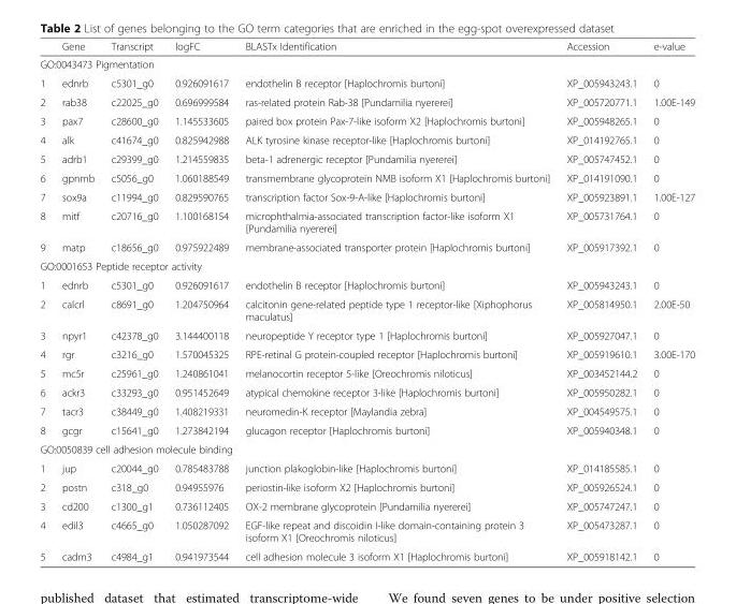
<table><thead><tr><td></td><td>Gene</td><td>Transcript</td><td>logFC</td><td>BLASTx Identification</td><td>Accession</td><td>e-value</td></tr></thead><tbody><tr><td colspan="7">GO:0043473 Pigmentation</td></tr><tr><td>1</td><td>ednrb</td><td>c5301_g0</td><td>0.926091617</td><td>endothelin B receptor [Haplochromis burtoni]</td><td>XP_005943243.1</td><td>0</td></tr><tr><td>2</td><td>rab38</td><td>c22025_g0</td><td>0.696999584</td><td>ras-related protein Rab-38 [Pundamilia nyererei]</td><td>XP_005720771.1</td><td>1.00E-149</td></tr><tr><td>3</td><td>pax7</td><td>c28600_g0</td><td>1.145533605</td><td>paired box protein Pax-7-like isoform X2 [Haplochromis burtoni]</td><td>XP_005948265.1</td><td>0</td></tr><tr><td>4</td><td>alk</td><td>c41674_g0</td><td>0.825942988</td><td>ALK tyrosine kinase receptor-like [Haplochromis burtoni]</td><td>XP_014192765.1</td><td>0</td></tr><tr><td>5</td><td>adrb1</td><td>c29399_g0</td><td>1.214559835</td><td>beta-1 adrenergic receptor [Pundamilia nyererei]</td><td>XP_005747452.1</td><td>0</td></tr><tr><td>6</td><td>gpnmb</td><td>c5056_g0</td><td>1.060188549</td><td>transmembrane glycoprotein NMB isoform X1 [Haplochromis burtoni]</td><td>XP_014191090.1</td><td>0</td></tr><tr><td>7</td><td>sox9a</td><td>c11994_g0</td><td>0.829590765</td><td>transcription factor Sox-9-A-like [Haplochromis burtoni]</td><td>XP_005923891.1</td><td>1.00E-127</td></tr><tr><td>8</td><td>mitf</td><td>c20716_g0</td><td>1.100168154</td><td>microphthalmia-associated transcription factor-like isoform X1 [Pundamilia nyererei]</td><td>XP_005731764.1</td><td>0</td></tr><tr><td>9</td><td>matp</td><td>c18656_g0</td><td>0.975922489</td><td>membrane-associated transporter protein [Haplochromis burtoni]</td><td>XP_005917392.1</td><td>0</td></tr><tr><td colspan="7">GO:0001653 Peptide receptor activity</td></tr><tr><td>1</td><td>ednrb</td><td>c5301_g0</td><td>0.926091617</td><td>endothelin B receptor [Haplochromis burtoni]</td><td>XP_005943243.1</td><td>0</td></tr><tr><td>2</td><td>calcrl</td><td>c8691_g0</td><td>1.204750964</td><td>calcitonin gene-related peptide type 1 receptor-like [Xiphophorus maculatus]</td><td>XP_005814950.1</td><td>2.00E-50</td></tr><tr><td>3</td><td>npyr1</td><td>c42378_g0</td><td>3.144400118</td><td>neuropeptide Y receptor type 1 [Haplochromis burtoni]</td><td>XP_005927047.1</td><td>0</td></tr><tr><td>4</td><td>rgr</td><td>c3216_g0</td><td>1.570045325</td><td>RPE-retinal G protein-coupled receptor [Haplochromis burtoni]</td><td>XP_005919610.1</td><td>3.00E-170</td></tr><tr><td>5</td><td>mc5r</td><td>c25961_g0</td><td>1.240861041</td><td>melanocortin receptor 5-like [Oreochromis niloticus]</td><td>XP_003452144.2</td><td>0</td></tr><tr><td>6</td><td>ackr3</td><td>c33293_g0</td><td>0.951452649</td><td>atypical chemokine receptor 3-like [Haplochromis burtoni]</td><td>XP_005950282.1</td><td>0</td></tr><tr><td>7</td><td>tacr3</td><td>c38449_g0</td><td>1.408219331</td><td>neuromedin-K receptor [Maylandia zebra]</td><td>XP_004549575.1</td><td>0</td></tr><tr><td>8</td><td>gcgr</td><td>c15641_g0</td><td>1.273842194</td><td>glucagon receptor [Haplochromis burtoni]</td><td>XP_005940348.1</td><td>0</td></tr><tr><td colspan="7">GO:0050839 cell adhesion molecule binding</td></tr><tr><td>1</td><td>jup</td><td>c20044_g0</td><td>0.785483788</td><td>junction plakoglobin-like [Haplochromis burtoni]</td><td>XP_014185585.1</td><td>0</td></tr><tr><td>2</td><td>postn</td><td>c318_g0</td><td>0.94955976</td><td>periostin-like isoform X2 [Haplochromis burtoni]</td><td>XP_005926524.1</td><td>0</td></tr><tr><td>3</td><td>cd200</td><td>c1300_g1</td><td>0.736112405</td><td>OX-2 membrane glycoprotein [Pundamilia nyererei]</td><td>XP_005747247.1</td><td>0</td></tr><tr><td>4</td><td>edil3</td><td>c4665_g0</td><td>1.050287092</td><td>EGF-like repeat and discoidin I-like domain-containing protein 3 isoform X1 [Oreochromis niloticus]</td><td>XP_005473287.1</td><td>0</td></tr><tr><td>5</td><td>cadm3</td><td>c4984_g1</td><td>0.941973544</td><td>cell adhesion molecule 3 isoform X1 [Haplochromis burtoni]</td><td>XP_005918142.1</td><td>0</td></tr></tbody></table>